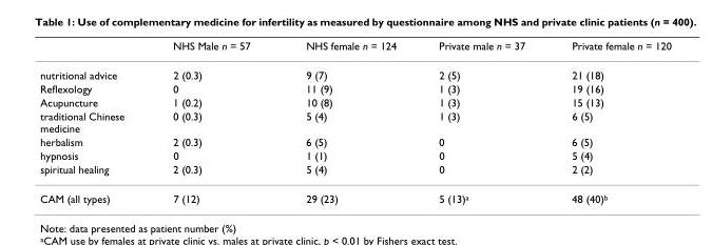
<table><thead><tr><td></td><td>NHS Male n = 57</td><td>NHS female n = 124</td><td>Private male n = 37</td><td>Private female n = 120</td></tr></thead><tbody><tr><td>nutritional advice</td><td>2 (0.3)</td><td>9 (7)</td><td>2 (5)</td><td>21 (18)</td></tr><tr><td>Reflexology</td><td>0</td><td>11 (9)</td><td>1 (3)</td><td>19 (16)</td></tr><tr><td>Acupuncture</td><td>1 (0.2)</td><td>10 (8)</td><td>1 (3)</td><td>15 (13)</td></tr><tr><td>traditional Chinese medicine</td><td>0 (0.3)</td><td>5 (4)</td><td>1 (3)</td><td>6 (5)</td></tr><tr><td>herbalism</td><td>2 (0.3)</td><td>6 (5)</td><td>0</td><td>6 (5)</td></tr><tr><td>hypnosis</td><td>0</td><td>1 (1)</td><td>0</td><td>5 (4)</td></tr><tr><td>spiritual healing</td><td>2 (0.3)</td><td>5 (4)</td><td>0</td><td>2 (2)</td></tr><tr><td>CAM (all types)</td><td>7 (12)</td><td>29 (23)</td><td>5 (13)<sup>a</sup></td><td>48 (40)<sup>b</sup></td></tr></tbody></table>